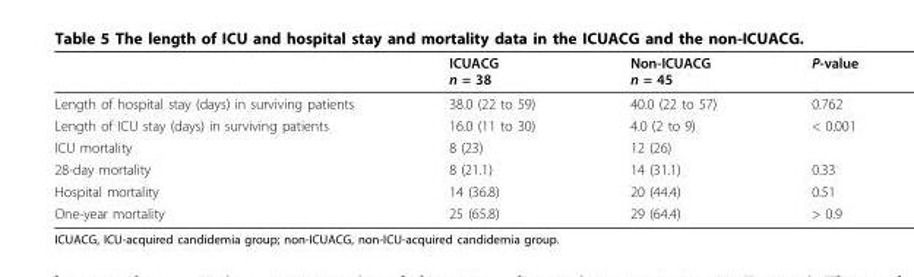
<table><thead><tr><td></td><td>ICUACG n = 38</td><td>Non-ICUACG n = 45</td><td>P-value</td></tr></thead><tbody><tr><td>Length of hospital stay (days) in surviving patients</td><td>38.0 (22 to 59)</td><td>40.0 (22 to 57)</td><td>0.762</td></tr><tr><td>Length of ICU stay (days) in surviving patients</td><td>16.0 (11 to 30)</td><td>4.0 (2 to 9)</td><td>&lt; 0.001</td></tr><tr><td>ICU mortality</td><td>8 (23)</td><td>12 (26)</td><td></td></tr><tr><td>28-day mortality</td><td>8 (21.1)</td><td>14 (31.1)</td><td>0.33</td></tr><tr><td>Hospital mortality</td><td>14 (36.8)</td><td>20 (44.4)</td><td>0.51</td></tr><tr><td>One-year mortality</td><td>25 (65.8)</td><td>29 (64.4)</td><td>&gt; 0.9</td></tr></tbody></table>